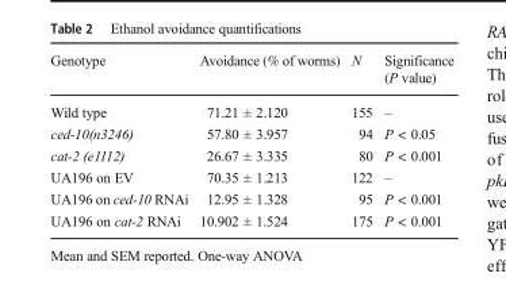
<table><thead><tr><td>Genotype</td><td>Avoidance (% of worms)</td><td>N</td><td>Significance (P value)</td></tr></thead><tbody><tr><td>Wild type</td><td>71.21 ± 2.120</td><td>155</td><td>–</td></tr><tr><td>ced-10(n3246)</td><td>57.80 ± 3.957</td><td>94</td><td>P &lt; 0.05</td></tr><tr><td>cat-2 (e1112)</td><td>26.67 ± 3.335</td><td>80</td><td>P &lt; 0.001</td></tr><tr><td>UA196 on EV</td><td>70.35 ± 1.213</td><td>122</td><td>–</td></tr><tr><td>UA196 on ced-10 RNAi</td><td>12.95 ± 1.328</td><td>95</td><td>P &lt; 0.001</td></tr><tr><td>UA196 on cat-2 RNAi</td><td>10.902 ± 1.524</td><td>175</td><td>P &lt; 0.001</td></tr></tbody></table>